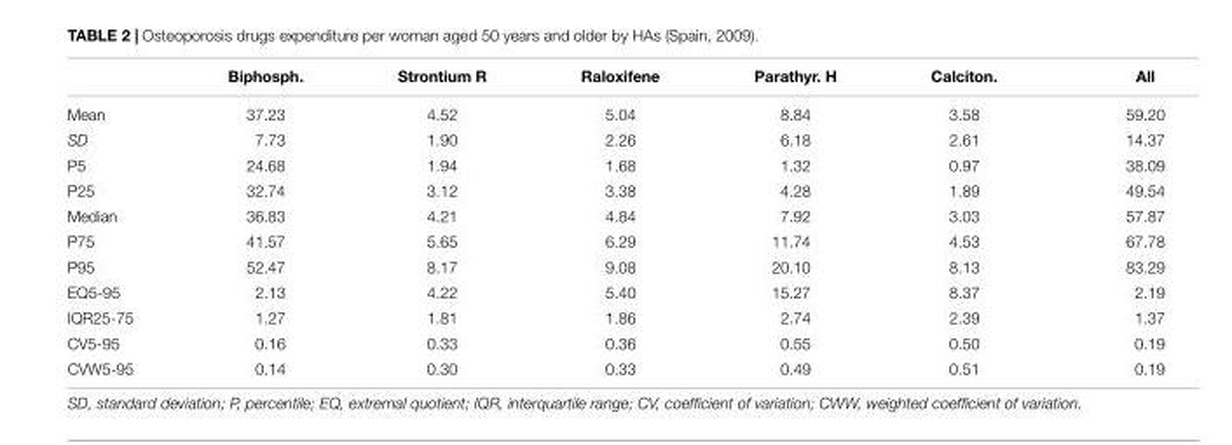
<table><thead><tr><td></td><td>Biphosph.</td><td>Strontium R</td><td>Raloxifene</td><td>Parathyr. H</td><td>Calciton.</td><td>All</td></tr></thead><tbody><tr><td>Mean</td><td>37.23</td><td>4.52</td><td>5.04</td><td>8.84</td><td>3.58</td><td>59.20</td></tr><tr><td>SD</td><td>7.73</td><td>1.90</td><td>2.26</td><td>6.18</td><td>2.61</td><td>14.37</td></tr><tr><td>P5</td><td>24.68</td><td>1.94</td><td>1.68</td><td>1.32</td><td>0.97</td><td>38.09</td></tr><tr><td>P25</td><td>32.74</td><td>3.12</td><td>3.38</td><td>4.28</td><td>1.89</td><td>49.54</td></tr><tr><td>Median</td><td>36.83</td><td>4.21</td><td>4.84</td><td>7.92</td><td>3.03</td><td>57.87</td></tr><tr><td>P75</td><td>41.57</td><td>5.65</td><td>6.29</td><td>11.74</td><td>4.53</td><td>67.78</td></tr><tr><td>P95</td><td>52.47</td><td>8.17</td><td>9.08</td><td>20.10</td><td>8.13</td><td>83.29</td></tr><tr><td>EQ5-95</td><td>2.13</td><td>4.22</td><td>5.40</td><td>15.27</td><td>8.37</td><td>2.19</td></tr><tr><td>IQR25-75</td><td>1.27</td><td>1.81</td><td>1.86</td><td>2.74</td><td>2.39</td><td>1.37</td></tr><tr><td>CV5-95</td><td>0.16</td><td>0.33</td><td>0.36</td><td>0.55</td><td>0.50</td><td>0.19</td></tr><tr><td>CVW5-95</td><td>0.14</td><td>0.30</td><td>0.33</td><td>0.49</td><td>0.51</td><td>0.19</td></tr></tbody></table>